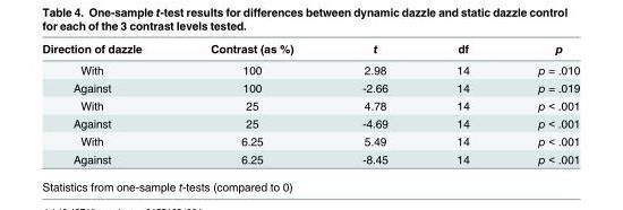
<table><thead><tr><td>Direction of dazzle</td><td>Contrast (as %)</td><td>t</td><td>df</td><td>p</td></tr></thead><tbody><tr><td>With</td><td>100</td><td>2.98</td><td>14</td><td>p = .010</td></tr><tr><td>Against</td><td>100</td><td>-2.66</td><td>14</td><td>p = .019</td></tr><tr><td>With</td><td>25</td><td>4.78</td><td>14</td><td>p &lt; .001</td></tr><tr><td>Against</td><td>25</td><td>-4.69</td><td>14</td><td>p &lt; .001</td></tr><tr><td>With</td><td>6.25</td><td>5.49</td><td>14</td><td>p &lt; .001</td></tr><tr><td>Against</td><td>6.25</td><td>-8.45</td><td>14</td><td>p &lt; .001</td></tr></tbody></table>